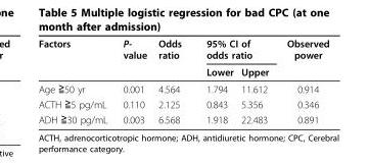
<table><thead><tr><td rowspan="2">Factors</td><td rowspan="2">P- value</td><td rowspan="2">Odds ratio</td><td colspan="2">95% CI of odds ratio</td><td rowspan="2">Observed power</td></tr><tr><td>Lower</td><td>Upper</td></tr></thead><tbody><tr><td>Age ≧50 yr</td><td>0.001</td><td>4.564</td><td>1.794</td><td>11.612</td><td>0.914</td></tr><tr><td>ACTH ≧5 pg/mL</td><td>0.110</td><td>2.125</td><td>0.843</td><td>5.356</td><td>0.346</td></tr><tr><td>ADH ≧30 pg/mL</td><td>0.003</td><td>6.568</td><td>1.918</td><td>22.483</td><td>0.891</td></tr></tbody></table>